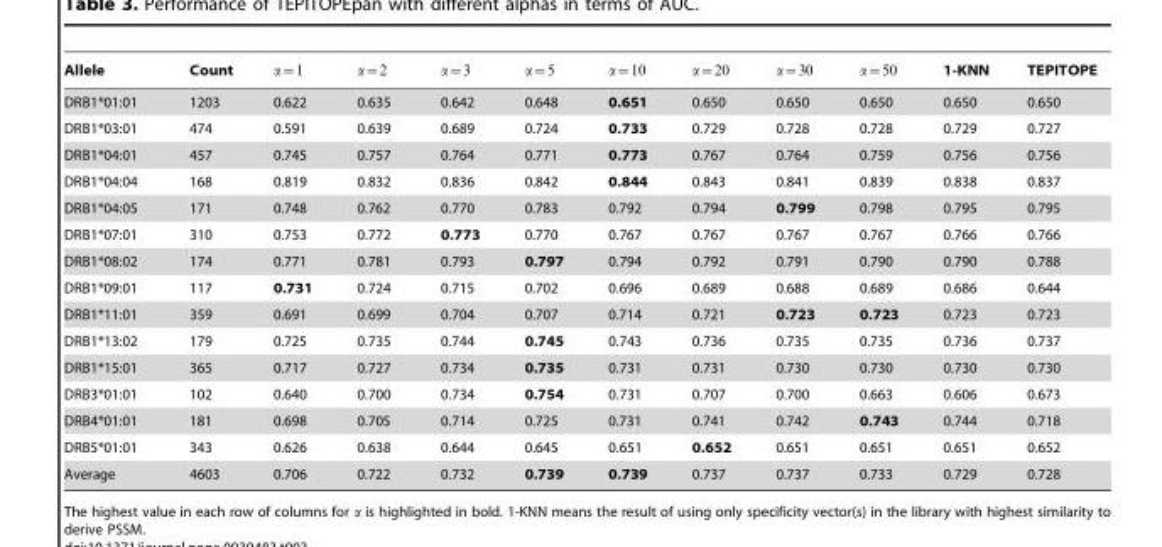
<table><thead><tr><td>Allele</td><td>Count</td><td>a~1</td><td>a~2</td><td>a~3</td><td>a~5</td><td>a~10</td><td>a~20</td><td>a~30</td><td>a~50</td><td>1-KNN</td><td>TEPITOPE</td></tr></thead><tbody><tr><td>DRB1*01:01</td><td>1203</td><td>0.622</td><td>0.635</td><td>0.642</td><td>0.648</td><td>0.651</td><td>0.650</td><td>0.650</td><td>0.650</td><td>0.650</td><td>0.650</td></tr><tr><td>DRB1*03:01</td><td>474</td><td>0.591</td><td>0.639</td><td>0.689</td><td>0.724</td><td>0.733</td><td>0.729</td><td>0.728</td><td>0.728</td><td>0.729</td><td>0.727</td></tr><tr><td>DRB1*04:01</td><td>457</td><td>0.745</td><td>0.757</td><td>0.764</td><td>0.771</td><td>0.773</td><td>0.767</td><td>0.764</td><td>0.759</td><td>0.756</td><td>0.756</td></tr><tr><td>DRB1*04:04</td><td>168</td><td>0.819</td><td>0.832</td><td>0.836</td><td>0.842</td><td>0.844</td><td>0.843</td><td>0.841</td><td>0.839</td><td>0.838</td><td>0.837</td></tr><tr><td>DRB1*04:05</td><td>171</td><td>0.748</td><td>0.762</td><td>0.770</td><td>0.783</td><td>0.792</td><td>0.794</td><td>0.799</td><td>0.798</td><td>0.795</td><td>0.795</td></tr><tr><td>DRB1*07:01</td><td>310</td><td>0.753</td><td>0.772</td><td>0.773</td><td>0.770</td><td>0.767</td><td>0.767</td><td>0.767</td><td>0.767</td><td>0.766</td><td>0.766</td></tr><tr><td>DRB1*08:02</td><td>174</td><td>0.771</td><td>0.781</td><td>0.793</td><td>0.797</td><td>0.794</td><td>0.792</td><td>0.791</td><td>0.790</td><td>0.790</td><td>0.788</td></tr><tr><td>DRB1*09:01</td><td>117</td><td>0.731</td><td>0.724</td><td>0.715</td><td>0.702</td><td>0.696</td><td>0.689</td><td>0.688</td><td>0.689</td><td>0.686</td><td>0.644</td></tr><tr><td>DRB1*11:01</td><td>359</td><td>0.691</td><td>0.699</td><td>0.704</td><td>0.707</td><td>0.714</td><td>0.721</td><td>0.723</td><td>0.723</td><td>0.723</td><td>0.723</td></tr><tr><td>DRB1*13:02</td><td>179</td><td>0.725</td><td>0.735</td><td>0.744</td><td>0.745</td><td>0.743</td><td>0.736</td><td>0.735</td><td>0.735</td><td>0.736</td><td>0.737</td></tr><tr><td>DRB1*15:01</td><td>365</td><td>0.717</td><td>0.727</td><td>0.734</td><td>0.735</td><td>0.731</td><td>0.731</td><td>0.730</td><td>0.730</td><td>0.730</td><td>0.730</td></tr><tr><td>DRB3*01:01</td><td>102</td><td>0.640</td><td>0.700</td><td>0.734</td><td>0.754</td><td>0.731</td><td>0.707</td><td>0.700</td><td>0.663</td><td>0.606</td><td>0.673</td></tr><tr><td>DRB4*01:01</td><td>181</td><td>0.698</td><td>0.705</td><td>0.714</td><td>0.725</td><td>0.731</td><td>0.741</td><td>0.742</td><td>0.743</td><td>0.744</td><td>0.718</td></tr><tr><td>DRB5*01:01</td><td>343</td><td>0.626</td><td>0.638</td><td>0.644</td><td>0.645</td><td>0.651</td><td>0.652</td><td>0.651</td><td>0.651</td><td>0.651</td><td>0.652</td></tr><tr><td>Average</td><td>4603</td><td>0.706</td><td>0.722</td><td>0.732</td><td>0.739</td><td>0.739</td><td>0.737</td><td>0.737</td><td>0.733</td><td>0.729</td><td>0.728</td></tr></tbody></table>